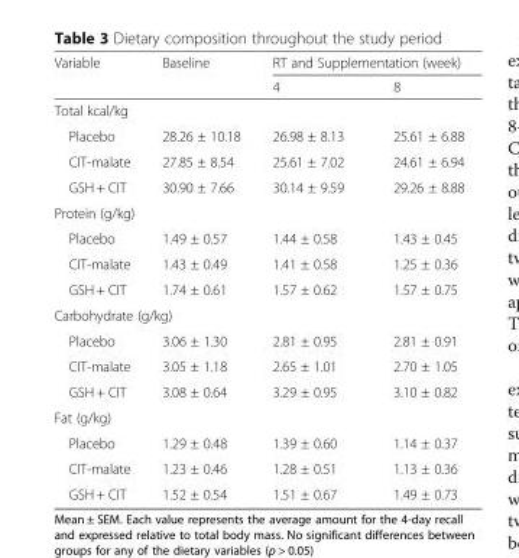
<table><thead><tr><td rowspan="2">Variable</td><td rowspan="2">Baseline</td><td colspan="2">RT and Supplementation (week)</td></tr><tr><td>4</td><td>8</td></tr></thead><tbody><tr><td colspan="4">Total kcal/kg</td></tr><tr><td>Placebo</td><td>28.26 ± 10.18</td><td>26.98 ± 8.13</td><td>25.61 ± 6.88</td></tr><tr><td>CIT-malate</td><td>27.85 ± 8.54</td><td>25.61 ± 7.02</td><td>24.61 ± 6.94</td></tr><tr><td>GSH + CIT</td><td>30.90 ± 7.66</td><td>30.14 ± 9.59</td><td>29.26 ± 8.88</td></tr><tr><td colspan="4">Protein (g/kg)</td></tr><tr><td>Placebo</td><td>1.49 ± 0.57</td><td>1.44 ± 0.58</td><td>1.43 ± 0.45</td></tr><tr><td>CIT-malate</td><td>1.43 ± 0.49</td><td>1.41 ± 0.58</td><td>1.25 ± 0.36</td></tr><tr><td>GSH + CIT</td><td>1.74 ± 0.61</td><td>1.57 ± 0.62</td><td>1.57 ± 0.75</td></tr><tr><td colspan="4">Carbohydrate (g/kg)</td></tr><tr><td>Placebo</td><td>3.06 ± 1.30</td><td>2.81 ± 0.95</td><td>2.81 ± 0.91</td></tr><tr><td>CIT-malate</td><td>3.05 ± 1.18</td><td>2.65 ± 1.01</td><td>2.70 ± 1.05</td></tr><tr><td>GSH + CIT</td><td>3.08 ± 0.64</td><td>3.29 ± 0.95</td><td>3.10 ± 0.82</td></tr><tr><td colspan="4">Fat (g/kg)</td></tr><tr><td>Placebo</td><td>1.29 ± 0.48</td><td>1.39 ± 0.60</td><td>1.14 ± 0.37</td></tr><tr><td>CIT-malate</td><td>1.23 ± 0.46</td><td>1.28 ± 0.51</td><td>1.13 ± 0.36</td></tr><tr><td>GSH + CIT</td><td>1.52 ± 0.54</td><td>1.51 ± 0.67</td><td>1.49 ± 0.73</td></tr></tbody></table>